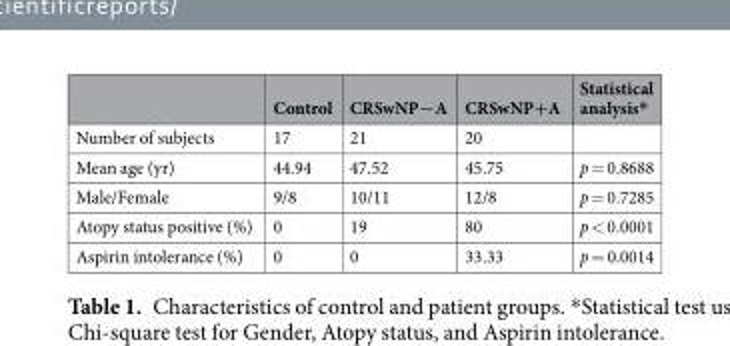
<table><thead><tr><td></td><td>Control</td><td>CRSwNP−A</td><td>CRSwNP+A</td><td>Statistical analysis*</td></tr></thead><tbody><tr><td>Number of subjects</td><td>17</td><td>21</td><td>20</td><td></td></tr><tr><td>Mean age (yr)</td><td>44.94</td><td>47.52</td><td>45.75</td><td>p = 0.8688</td></tr><tr><td>Male/Female</td><td>9/8</td><td>10/11</td><td>12/8</td><td>p = 0.7285</td></tr><tr><td>Atopy status positive (%)</td><td>0</td><td>19</td><td>80</td><td>p &lt; 0.0001</td></tr><tr><td>Aspirin intolerance (%)</td><td>0</td><td>0</td><td>33.33</td><td>p = 0.0014</td></tr></tbody></table>